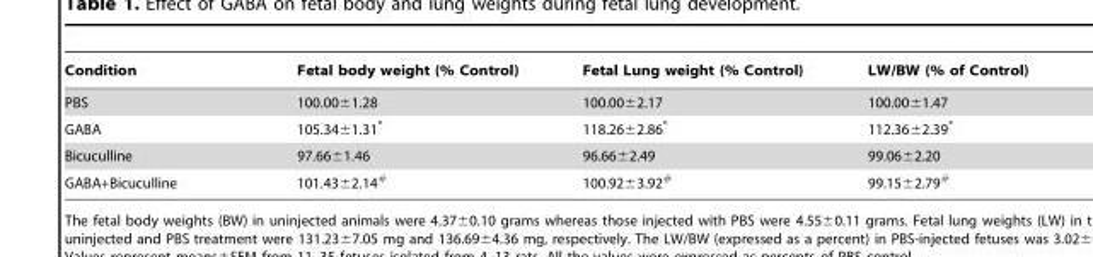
<table><thead><tr><td>Condition</td><td>Fetal body weight (% Control)</td><td>Fetal Lung weight (% Control)</td><td>LW/BW (% of Control)</td></tr></thead><tbody><tr><td>PBS</td><td>100.00±1.28</td><td>100.00±2.17</td><td>100.00±1.47</td></tr><tr><td>GABA</td><td>105.34±1.31*</td><td>118.26±2.86*</td><td>112.36±2.39*</td></tr><tr><td>Bicuculline</td><td>97.66±1.46</td><td>96.66±2.49</td><td>99.06±2.20</td></tr><tr><td>GABA+Bicuculline</td><td>101.43±2.14#</td><td>100.92±3.92#</td><td>99.15±2.79#</td></tr></tbody></table>